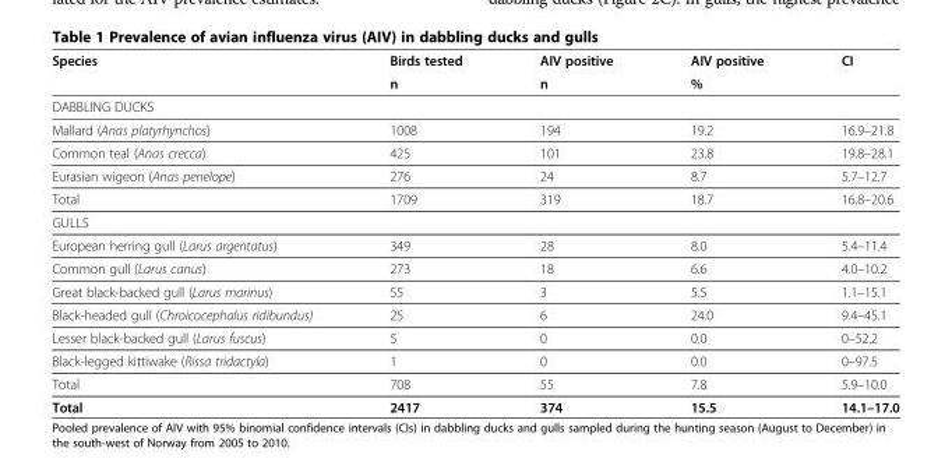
<table><thead><tr><td rowspan="2">Species</td><td rowspan="2">Birds tested n</td><td rowspan="2">AIV positive n</td><td rowspan="2">AIV positive %</td><td rowspan="2">CI</td></tr><tr></tr></thead><tbody><tr><td colspan="5">DABBLING DUCKS</td></tr><tr><td>Mallard (Anas platyrhynchos)</td><td>1008</td><td>194</td><td>19.2</td><td>16.9–21.8</td></tr><tr><td>Common teal (Anas crecca)</td><td>425</td><td>101</td><td>23.8</td><td>19.8–28.1</td></tr><tr><td>Eurasian wigeon (Anas penelope)</td><td>276</td><td>24</td><td>8.7</td><td>5.7–12.7</td></tr><tr><td>Total</td><td>1709</td><td>319</td><td>18.7</td><td>16.8–20.6</td></tr><tr><td colspan="5">GULLS</td></tr><tr><td>European herring gull (Larus argentatus)</td><td>349</td><td>28</td><td>8.0</td><td>5.4–11.4</td></tr><tr><td>Common gull (Larus canus)</td><td>273</td><td>18</td><td>6.6</td><td>4.0–10.2</td></tr><tr><td>Great black-backed gull (Larus marinus)</td><td>55</td><td>3</td><td>5.5</td><td>1.1–15.1</td></tr><tr><td>Black-headed gull (Chroicocephalus ridibundus)</td><td>25</td><td>6</td><td>24.0</td><td>9.4–45.1</td></tr><tr><td>Lesser black-backed gull (Larus fuscus)</td><td>5</td><td>0</td><td>0.0</td><td>0–52.2</td></tr><tr><td>Black-legged kittiwake (Rissa tridactyla)</td><td>1</td><td>0</td><td>0.0</td><td>0–97.5</td></tr><tr><td>Total</td><td>708</td><td>55</td><td>7.8</td><td>5.9–10.0</td></tr><tr><td>Total</td><td>2417</td><td>374</td><td>15.5</td><td>14.1–17.0</td></tr></tbody></table>